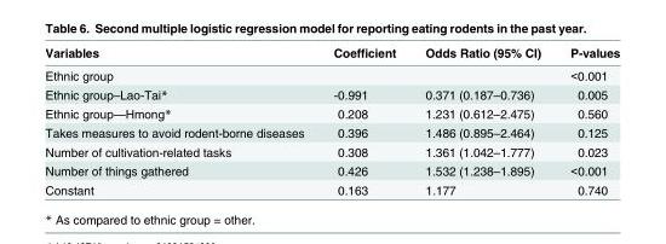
<table><thead><tr><td>Variables</td><td>Coefficient</td><td>Odds Ratio (95% CI)</td><td>P-values</td></tr></thead><tbody><tr><td>Ethnic group</td><td></td><td></td><td>&lt;0.001</td></tr><tr><td>Ethnic group–Lao-Tai*</td><td>-0.991</td><td>0.371 (0.187–0.736)</td><td>0.005</td></tr><tr><td>Ethnic group—Hmong*</td><td>0.208</td><td>1.231 (0.612–2.475)</td><td>0.560</td></tr><tr><td>Takes measures to avoid rodent-borne diseases</td><td>0.396</td><td>1.486 (0.895–2.464)</td><td>0.125</td></tr><tr><td>Number of cultivation-related tasks</td><td>0.308</td><td>1.361 (1.042–1.777)</td><td>0.023</td></tr><tr><td>Number of things gathered</td><td>0.426</td><td>1.532 (1.238–1.895)</td><td>&lt;0.001</td></tr><tr><td>Constant</td><td>0.163</td><td>1.177</td><td>0.740</td></tr></tbody></table>